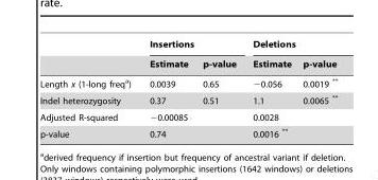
<table><thead><tr><td rowspan="2"></td><td colspan="2">Insertions</td><td colspan="2">Deletions</td></tr><tr><td>Estimate</td><td>p-value</td><td>Estimate</td><td>p-value</td></tr></thead><tbody><tr><td>Length x (1-long freq<sup>a</sup>)</td><td>0.0039</td><td>0.65</td><td>−0.056</td><td>0.0019 **</td></tr><tr><td>Indel heterozygosity</td><td>0.37</td><td>0.51</td><td>1.1</td><td>0.0065 **</td></tr><tr><td>Adjusted R-squared</td><td colspan="2">−0.00085</td><td colspan="2">0.0028</td></tr><tr><td>p-value</td><td colspan="2">0.74</td><td colspan="2">0.0016 **</td></tr></tbody></table>